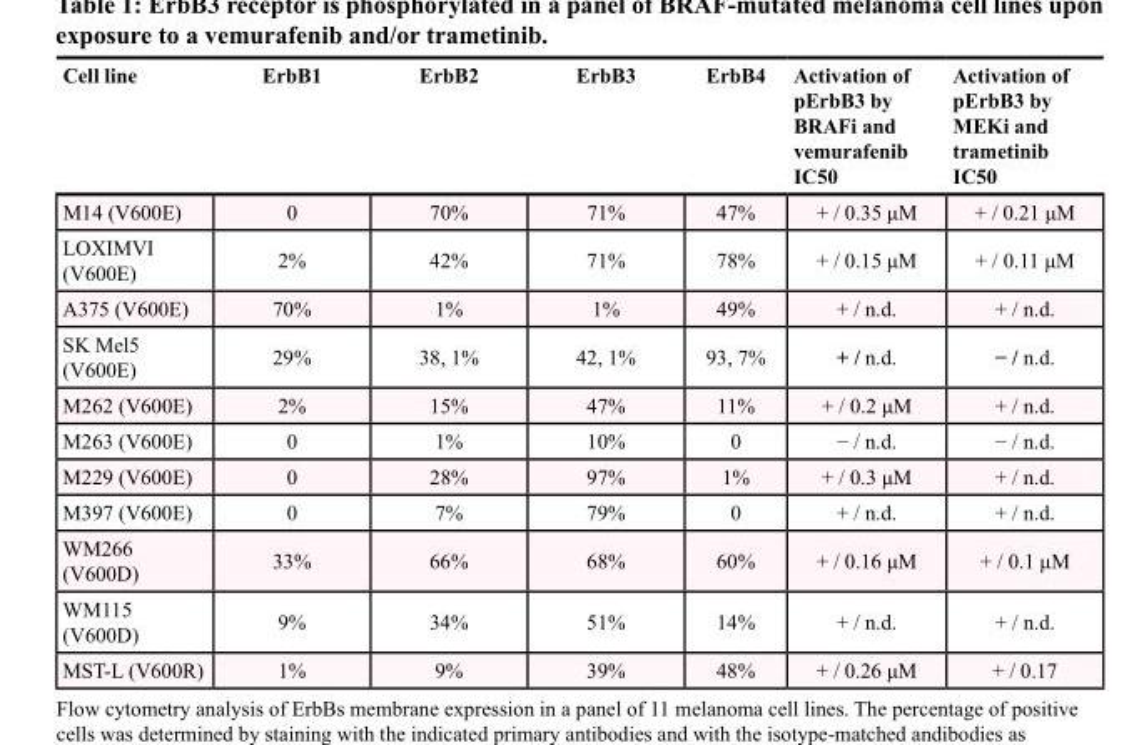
<table><thead><tr><td>Cell line</td><td>ErbB1</td><td>ErbB2</td><td>ErbB3</td><td>ErbB4</td><td>Activation of pErbB3 by BRAFi and vemurafenib IC50</td><td>Activation of pErbB3 by MEKi and trametinib IC50</td></tr></thead><tbody><tr><td>M14 (V600E)</td><td>0</td><td>70%</td><td>71%</td><td>47%</td><td>+ / 0.35 μM</td><td>+ / 0.21 μM</td></tr><tr><td>LOXIMVI (V600E)</td><td>2%</td><td>42%</td><td>71%</td><td>78%</td><td>+ / 0.15 μM</td><td>+ / 0.11 μM</td></tr><tr><td>A375 (V600E)</td><td>70%</td><td>1%</td><td>1%</td><td>49%</td><td>+ / n.d.</td><td>+ / n.d.</td></tr><tr><td>SK Mel5 (V600E)</td><td>29%</td><td>38, 1%</td><td>42, 1%</td><td>93, 7%</td><td>+ / n.d.</td><td>− / n.d.</td></tr><tr><td>M262 (V600E)</td><td>2%</td><td>15%</td><td>47%</td><td>11%</td><td>+ / 0.2 μM</td><td>+ / n.d.</td></tr><tr><td>M263 (V600E)</td><td>0</td><td>1%</td><td>10%</td><td>0</td><td>− / n.d.</td><td>− / n.d.</td></tr><tr><td>M229 (V600E)</td><td>0</td><td>28%</td><td>97%</td><td>1%</td><td>+ / 0.3 μM</td><td>+ / n.d.</td></tr><tr><td>M397 (V600E)</td><td>0</td><td>7%</td><td>79%</td><td>0</td><td>+ / n.d.</td><td>+ / n.d.</td></tr><tr><td>WM266 (V600D)</td><td>33%</td><td>66%</td><td>68%</td><td>60%</td><td>+ / 0.16 μM</td><td>+ / 0.1 μM</td></tr><tr><td>WM115 (V600D)</td><td>9%</td><td>34%</td><td>51%</td><td>14%</td><td>+ / n.d.</td><td>+ / n.d.</td></tr><tr><td>MST-L (V600R)</td><td>1%</td><td>9%</td><td>39%</td><td>48%</td><td>+ / 0.26 μM</td><td>+ / 0.17</td></tr></tbody></table>